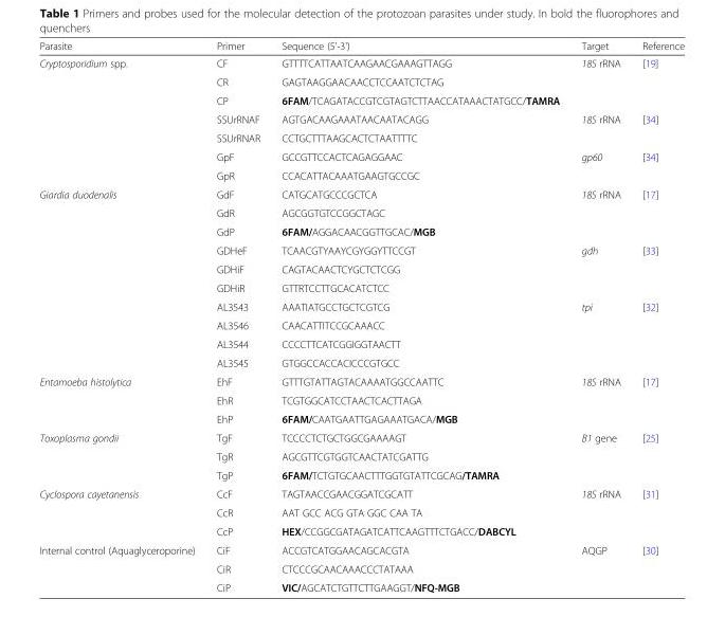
<table><thead><tr><td>Parasite</td><td>Primer</td><td>Sequence (5&#x27;-3&#x27;)</td><td>Target</td><td>Reference</td></tr></thead><tbody><tr><td rowspan="7">Cryptosporidium spp.</td><td>CF</td><td>GTTTTCATTAATCAAGAACGAAAGTTAGG</td><td rowspan="3">18S rRNA</td><td rowspan="3">[19]</td></tr><tr><td>CR</td><td>GAGTAAGGAACAACCTCCAATCTCTAG</td></tr><tr><td>CP</td><td>6FAM/TCAGATACCGTCGTAGTCTTAACCATAAACTATGCC/TAMRA</td></tr><tr><td>SSUrRNAF</td><td>AGTGACAAGAAATAACAATACAGG</td><td rowspan="2">18S rRNA</td><td rowspan="2">[34]</td></tr><tr><td>SSUrRNAR</td><td>CCTGCTTTAAGCACTCTAATTTTC</td></tr><tr><td>GpF</td><td>GCCGTTCCACTCAGAGGAAC</td><td rowspan="2">gp60</td><td rowspan="2">[34]</td></tr><tr><td>GpR</td><td>CCACATTACAAATGAAGTGCCGC</td></tr><tr><td rowspan="10">Giardia duodenalis</td><td>GdF</td><td>CATGCATGCCCGCTCA</td><td rowspan="3">18S rRNA</td><td rowspan="3">[17]</td></tr><tr><td>GdR</td><td>AGCGGTGTCCGGCTAGC</td></tr><tr><td>GdP</td><td>6FAM/AGGACAACGGTTGCAC/MGB</td></tr><tr><td>GDHeF</td><td>TCAACGTYAAYCGYGGYTTCCGT</td><td rowspan="3">gdh</td><td rowspan="3">[33]</td></tr><tr><td>GDHiF</td><td>CAGTACAACTCYGCTCTCGG</td></tr><tr><td>GDHiR</td><td>GTTRTCCTTGCACATCTCC</td></tr><tr><td>AL3543</td><td>AAATIATGCCTGCTCGTCG</td><td rowspan="4">tpi</td><td rowspan="4">[32]</td></tr><tr><td>AL3546</td><td>CAACATTITCCGCAAACC</td></tr><tr><td>AL3544</td><td>CCCCTTCATCGGIGGTAACTT</td></tr><tr><td>AL3545</td><td>GTGGCCACCACICCCGTGCC</td></tr><tr><td rowspan="3">Entamoeba histolytica</td><td>EhF</td><td>GTTTGTATTAGTACAAAATGGCCAATTC</td><td rowspan="3">18S rRNA</td><td rowspan="3">[17]</td></tr><tr><td>EhR</td><td>TCGTGGCATCCTAACTCACTTAGA</td></tr><tr><td>EhP</td><td>6FAM/CAATGAATTGAGAAATGACA/MGB</td></tr><tr><td rowspan="3">Toxoplasma gondii</td><td>TgF</td><td>TCCCCTCTGCTGGCGAAAAGT</td><td rowspan="3">B1 gene</td><td rowspan="3">[25]</td></tr><tr><td>TgR</td><td>AGCGTTCGTGGTCAACTATCGATTG</td></tr><tr><td>TgP</td><td>6FAM/TCTGTGCAACTTTGGTGTATTCGCAG/TAMRA</td></tr><tr><td rowspan="3">Cyclospora cayetanensis</td><td>CcF</td><td>TAGTAACCGAACGGATCGCATT</td><td rowspan="3">18S rRNA</td><td rowspan="3">[31]</td></tr><tr><td>CcR</td><td>AAT GCC ACG GTA GGC CAA TA</td></tr><tr><td>CcP</td><td>HEX/CCGGCGATAGATCATTCAAGTTTCTGACC/DABCYL</td></tr><tr><td rowspan="3">Internal control (Aquaglyceroporine)</td><td>CiF</td><td>ACCGTCATGGAACAGCACGTA</td><td rowspan="3">AQGP</td><td rowspan="3">[30]</td></tr><tr><td>CiR</td><td>CTCCCGCAACAAACCCTATAAA</td></tr><tr><td>CiP</td><td>VIC/AGCATCTGTTCTTGAAGGT/NFQ-MGB</td></tr></tbody></table>